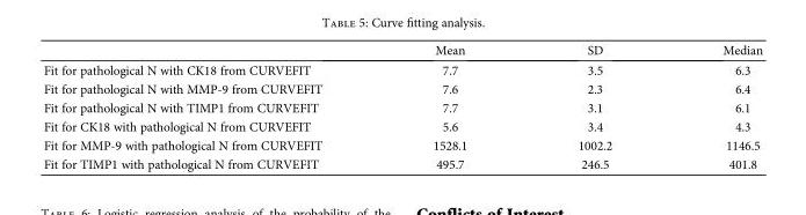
<table><thead><tr><td></td><td>Mean</td><td>SD</td><td>Median</td></tr></thead><tbody><tr><td>Fit for pathological N with CK18 from CURVEFIT</td><td>7.7</td><td>3.5</td><td>6.3</td></tr><tr><td>Fit for pathological N with MMP-9 from CURVEFIT</td><td>7.6</td><td>2.3</td><td>6.4</td></tr><tr><td>Fit for pathological N with TIMP1 from CURVEFIT</td><td>7.7</td><td>3.1</td><td>6.1</td></tr><tr><td>Fit for CK18 with pathological N from CURVEFIT</td><td>5.6</td><td>3.4</td><td>4.3</td></tr><tr><td>Fit for MMP-9 with pathological N from CURVEFIT</td><td>1528.1</td><td>1002.2</td><td>1146.5</td></tr><tr><td>Fit for TIMP1 with pathological N from CURVEFIT</td><td>495.7</td><td>246.5</td><td>401.8</td></tr></tbody></table>